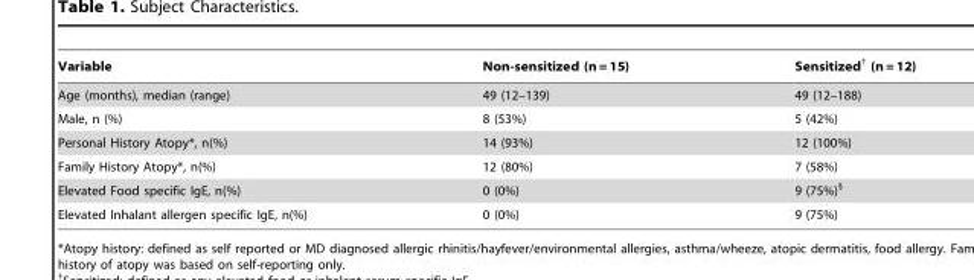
<table><thead><tr><td>Variable</td><td>Non-sensitized (n = 15)</td><td>Sensitized† (n = 12)</td></tr></thead><tbody><tr><td>Age (months), median (range)</td><td>49 (12–139)</td><td>49 (12–188)</td></tr><tr><td>Male, n (%)</td><td>8 (53%)</td><td>5 (42%)</td></tr><tr><td>Personal History Atopy*, n(%)</td><td>14 (93%)</td><td>12 (100%)</td></tr><tr><td>Family History Atopy*, n(%)</td><td>12 (80%)</td><td>7 (58%)</td></tr><tr><td>Elevated Food specific IgE, n(%)</td><td>0 (0%)</td><td>9 (75%)§</td></tr><tr><td>Elevated Inhalant allergen specific IgE, n(%)</td><td>0 (0%)</td><td>9 (75%)</td></tr></tbody></table>